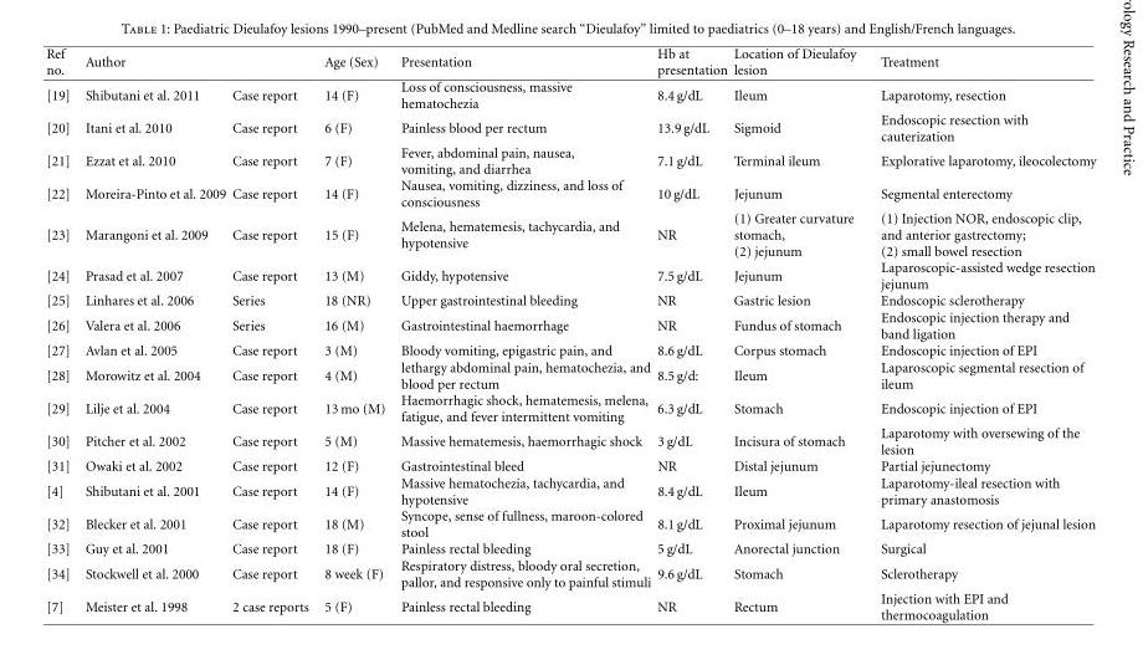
<table><thead><tr><td>Ref no.</td><td>Author</td><td></td><td>Age (Sex)</td><td>Presentation</td><td>Hb at presentation</td><td>Location of Dieulafoy lesion</td><td>Treatment</td></tr></thead><tbody><tr><td>[19]</td><td>Shibutani et al. 2011</td><td>Case report</td><td>14 (F)</td><td>Loss of consciousness, massive hematochezia</td><td>8.4 g/dL</td><td>Ileum</td><td>Laparotomy, resection</td></tr><tr><td>[20]</td><td>Itani et al. 2010</td><td>Case report</td><td>6 (F)</td><td>Painless blood per rectum</td><td>13.9 g/dL</td><td>Sigmoid</td><td>Endoscopic resection with cauterization</td></tr><tr><td>[21]</td><td>Ezzat et al. 2010</td><td>Case report</td><td>7 (F)</td><td>Fever, abdominal pain, nausea, vomiting, and diarrhea</td><td>7.1 g/dL</td><td>Terminal ileum</td><td>Explorative laparotomy, ileocolectomy</td></tr><tr><td>[22]</td><td>Moreira-Pinto et al. 2009</td><td>Case report</td><td>14 (F)</td><td>Nausea, vomiting, dizziness, and loss of consciousness</td><td>10 g/dL</td><td>Jejunum</td><td>Segmental enterectomy</td></tr><tr><td>[23]</td><td>Marangoni et al. 2009</td><td>Case report</td><td>15 (F)</td><td>Melena, hematemesis, tachycardia, and hypotensive</td><td>NR</td><td>(1) Greater curvature stomach, (2) jejunum</td><td>(1) Injection NOR, endoscopic clip, and anterior gastrectomy; (2) small bowel resection</td></tr><tr><td>[24]</td><td>Prasad et al. 2007</td><td>Case report</td><td>13 (M)</td><td>Giddy, hypotensive</td><td>7.5 g/dL</td><td>Jejunum</td><td>Laparoscopic-assisted wedge resection jejunum</td></tr><tr><td>[25]</td><td>Linhares et al. 2006</td><td>Series</td><td>18 (NR)</td><td>Upper gastrointestinal bleeding</td><td>NR</td><td>Gastric lesion</td><td>Endoscopic sclerotherapy</td></tr><tr><td>[26]</td><td>Valera et al. 2006</td><td>Series</td><td>16 (M)</td><td>Gastrointestinal haemorrhage</td><td>NR</td><td>Fundus of stomach</td><td>Endoscopic injection therapy and band ligation</td></tr><tr><td>[27]</td><td>Avlan et al. 2005</td><td>Case report</td><td>3 (M)</td><td>Bloody vomiting, epigastric pain, and</td><td>8.6 g/dL</td><td>Corpus stomach</td><td>Endoscopic injection of EPI</td></tr><tr><td>[28]</td><td>Morowitz et al. 2004</td><td>Case report</td><td>4 (M)</td><td>lethargy abdominal pain, hematochezia, and blood per rectum</td><td>8.5 g/d:</td><td>Ileum</td><td>Laparoscopic segmental resection of ileum</td></tr><tr><td>[29]</td><td>Lilje et al. 2004</td><td>Case report</td><td>13 mo (M)</td><td>Haemorrhagic shock, hematemesis, melena, fatigue, and fever intermittent vomiting</td><td>6.3 g/dL</td><td>Stomach</td><td>Endoscopic injection of EPI</td></tr><tr><td>[30]</td><td>Pitcher et al. 2002</td><td>Case report</td><td>5 (M)</td><td>Massive hematemesis, haemorrhagic shock</td><td>3 g/dL</td><td>Incisura of stomach</td><td>Laparotomy with oversewing of the lesion</td></tr><tr><td>[31]</td><td>Owaki et al. 2002</td><td>Case report</td><td>12 (F)</td><td>Gastrointestinal bleed</td><td>NR</td><td>Distal jejunum</td><td>Partial jejunectomy</td></tr><tr><td>[4]</td><td>Shibutani et al. 2001</td><td>Case report</td><td>14 (F)</td><td>Massive hematochezia, tachycardia, and hypotensive</td><td>8.4 g/dL</td><td>Ileum</td><td>Laparotomy-ileal resection with primary anastomosis</td></tr><tr><td>[32]</td><td>Blecker et al. 2001</td><td>Case report</td><td>18 (M)</td><td>Syncope, sense of fullness, maroon-colored stool</td><td>8.1 g/dL</td><td>Proximal jejunum</td><td>Laparotomy resection of jejunal lesion</td></tr><tr><td>[33]</td><td>Guy et al. 2001</td><td>Case report</td><td>18 (F)</td><td>Painless rectal bleeding</td><td>5 g/dL</td><td>Anorectal junction</td><td>Surgical</td></tr><tr><td>[34]</td><td>Stockwell et al. 2000</td><td>Case report</td><td>8 week (F)</td><td>Respiratory distress, bloody oral secretion, pallor, and responsive only to painful stimuli</td><td>9.6 g/dL</td><td>Stomach</td><td>Sclerotherapy</td></tr><tr><td>[7]</td><td>Meister et al. 1998</td><td>2 case reports</td><td>5 (F)</td><td>Painless rectal bleeding</td><td>NR</td><td>Rectum</td><td>Injection with EPI and thermocoagulation</td></tr></tbody></table>